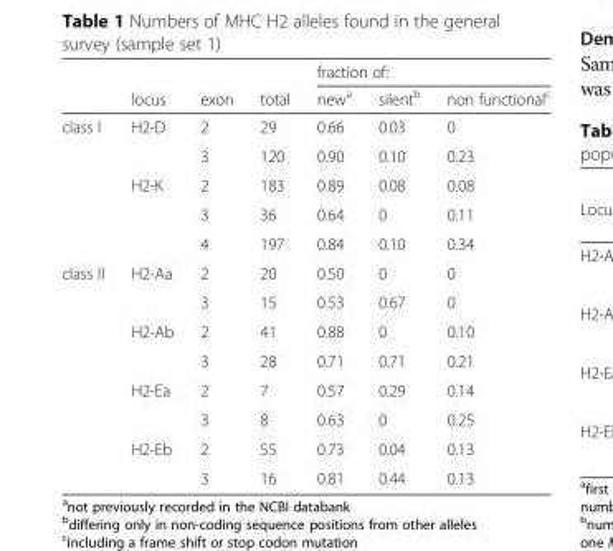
<table><thead><tr><td rowspan="2"></td><td rowspan="2">locus</td><td rowspan="2">exon</td><td rowspan="2">total</td><td colspan="3">fraction of:</td></tr><tr><td>new<sup>a</sup></td><td>silent<sup>b</sup></td><td>non functional<sup>c</sup></td></tr></thead><tbody><tr><td rowspan="5">class I</td><td>H2-D</td><td>2</td><td>29</td><td>0.66</td><td>0.03</td><td>0</td></tr><tr><td></td><td>3</td><td>120</td><td>0.90</td><td>0.10</td><td>0.23</td></tr><tr><td>H2-K</td><td>2</td><td>183</td><td>0.89</td><td>0.08</td><td>0.08</td></tr><tr><td></td><td>3</td><td>36</td><td>0.64</td><td>0</td><td>0.11</td></tr><tr><td></td><td>4</td><td>197</td><td>0.84</td><td>0.10</td><td>0.34</td></tr><tr><td rowspan="8">class II</td><td>H2-Aa</td><td>2</td><td>20</td><td>0.50</td><td>0</td><td>0</td></tr><tr><td></td><td>3</td><td>15</td><td>0.53</td><td>0.67</td><td>0</td></tr><tr><td>H2-Ab</td><td>2</td><td>41</td><td>0.88</td><td>0</td><td>0.10</td></tr><tr><td></td><td>3</td><td>28</td><td>0.71</td><td>0.71</td><td>0.21</td></tr><tr><td>H2-Ea</td><td>2</td><td>7</td><td>0.57</td><td>0.29</td><td>0.14</td></tr><tr><td></td><td>3</td><td>8</td><td>0.63</td><td>0</td><td>0.25</td></tr><tr><td>H2-Eb</td><td>2</td><td>55</td><td>0.73</td><td>0.04</td><td>0.13</td></tr><tr><td></td><td>3</td><td>16</td><td>0.81</td><td>0.44</td><td>0.13</td></tr></tbody></table>